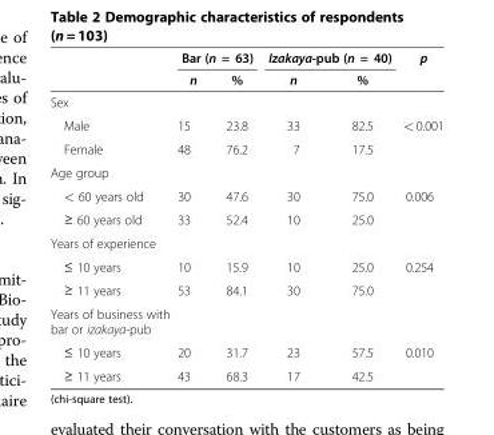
<table><thead><tr><td rowspan="2"></td><td colspan="2">Bar (n = 63)</td><td colspan="2">Izakaya-pub (n = 40)</td><td rowspan="2">p</td></tr><tr><td>n</td><td>%</td><td>n</td><td>%</td></tr></thead><tbody><tr><td colspan="6">Sex</td></tr><tr><td>Male</td><td>15</td><td>23.8</td><td>33</td><td>82.5</td><td>&lt; 0.001</td></tr><tr><td>Female</td><td>48</td><td>76.2</td><td>7</td><td>17.5</td><td></td></tr><tr><td colspan="6">Age group</td></tr><tr><td>&lt; 60 years old</td><td>30</td><td>47.6</td><td>30</td><td>75.0</td><td>0.006</td></tr><tr><td>≥ 60 years old</td><td>33</td><td>52.4</td><td>10</td><td>25.0</td><td></td></tr><tr><td colspan="6">Years of experience</td></tr><tr><td>≤ 10 years</td><td>10</td><td>15.9</td><td>10</td><td>25.0</td><td>0.254</td></tr><tr><td>≥ 11 years</td><td>53</td><td>84.1</td><td>30</td><td>75.0</td><td></td></tr><tr><td colspan="6">Years of business with bar or izakaya-pub</td></tr><tr><td>≤ 10 years</td><td>20</td><td>31.7</td><td>23</td><td>57.5</td><td>0.010</td></tr><tr><td>≥ 11 years</td><td>43</td><td>68.3</td><td>17</td><td>42.5</td><td></td></tr></tbody></table>